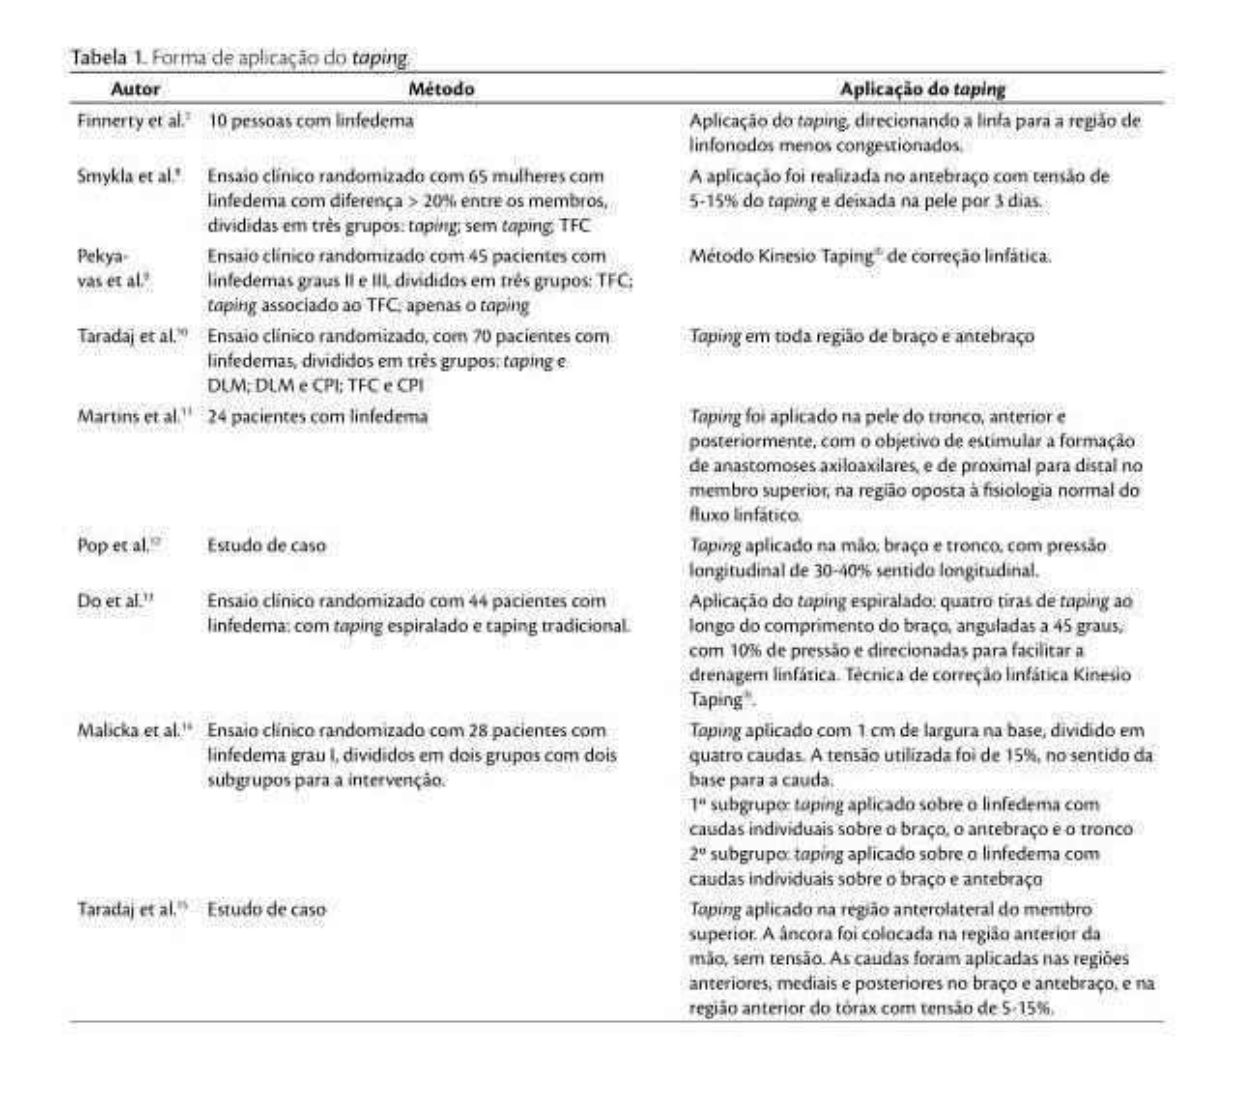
<table><thead><tr><td>Autor</td><td>Método</td><td>Aplicação do taping</td></tr></thead><tbody><tr><td>Finnerty et al.7</td><td>10 pessoas com linfedema</td><td>Aplicação do taping, direcionando a linfa para a região de linfonodos menos congestionados.</td></tr><tr><td>Smykla et al.8</td><td>Ensaio clínico randomizado com 65 mulheres com linfedema com diferença &gt; 20% entre os membros, divididas em três grupos: taping; sem taping; TFC</td><td>A aplicação foi realizada no antebraço com tensão de 5-15% do taping e deixada na pele por 3 dias.</td></tr><tr><td>Pekya- vas et al.9</td><td>Ensaio clínico randomizado com 45 pacientes com linfedemas graus II e III, divididos em três grupos: TFC; taping associado ao TFC; apenas o taping</td><td>Método Kinesio Taping® de correção linfática.</td></tr><tr><td>Taradaj et al.10</td><td>Ensaio clínico randomizado, com 70 pacientes com linfedemas, divididos em três grupos: taping e DLM; DLM e CPI; TFC e CPI</td><td>Taping em toda região de braço e antebraço</td></tr><tr><td>Martins et al.11</td><td>24 pacientes com linfedema</td><td>Taping foi aplicado na pele do tronco, anterior e posteriormente, com o objetivo de estimular a formação de anastomoses axiloaxilares, e de proximal para distal no membro superior, na região oposta à fisiologia normal do fluxo linfático.</td></tr><tr><td>Pop et al.12</td><td>Estudo de caso</td><td>Taping aplicado na mão, braço e tronco, com pressão longitudinal de 30-40% sentido longitudinal.</td></tr><tr><td>Do et al.13</td><td>Ensaio clínico randomizado com 44 pacientes com linfedema: com taping espiralado e taping tradicional.</td><td>Aplicação do taping espiralado: quatro tiras de taping ao longo do comprimento do braço, anguladas a 45 graus, com 10% de pressão e direcionadas para facilitar a drenagem linfática. Técnica de correção linfática Kinesio Taping®.</td></tr><tr><td>Malicka et al.14</td><td>Ensaio clínico randomizado com 28 pacientes com linfedema grau I, divididos em dois grupos com dois subgrupos para a intervenção.</td><td>Taping aplicado com 1 cm de largura na base, dividido em quatro caudas. A tensão utilizada foi de 15%, no sentido da base para a cauda. 1º subgrupo: taping aplicado sobre o linfedema com caudas individuais sobre o braço, o antebraço e o tronco 2º subgrupo: taping aplicado sobre o linfedema com caudas individuais sobre o braço e antebraço</td></tr><tr><td>Taradaj et al.15</td><td>Estudo de caso</td><td>Taping aplicado na região anterolateral do membro superior. A âncora foi colocada na região anterior da mão, sem tensão. As caudas foram aplicadas nas regiões anteriores, mediais e posteriores no braço e antebraço, e na região anterior do tórax com tensão de 5-15%.</td></tr></tbody></table>